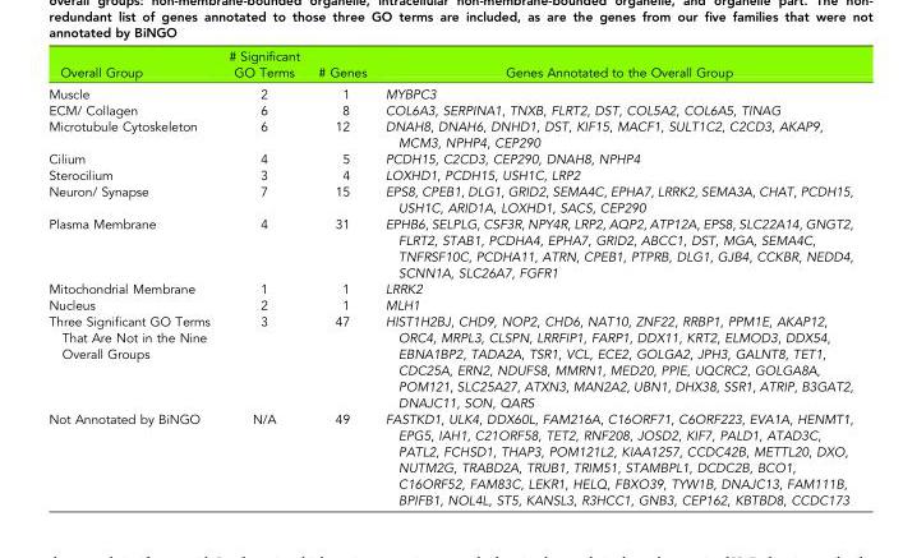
<table><thead><tr><td>Overall Group</td><td># Significant GO Terms</td><td># Genes</td><td>Genes Annotated to the Overall Group</td></tr></thead><tbody><tr><td>Muscle</td><td>2</td><td>1</td><td>MYBPC3</td></tr><tr><td>ECM/ Collagen</td><td>6</td><td>8</td><td>COL6A3, SERPINA1, TNXB, FLRT2, DST, COL5A2, COL6A5, TINAG</td></tr><tr><td>Microtubule Cytoskeleton</td><td>6</td><td>12</td><td>DNAH8, DNAH6, DNHD1, DST, KIF15, MACF1, SULT1C2, C2CD3, AKAP9, MCM3, NPHP4, CEP290</td></tr><tr><td>Cilium</td><td>4</td><td>5</td><td>PCDH15, C2CD3, CEP290, DNAH8, NPHP4</td></tr><tr><td>Sterocilium</td><td>3</td><td>4</td><td>LOXHD1, PCDH15, USH1C, LRP2</td></tr><tr><td>Neuron/ Synapse</td><td>7</td><td>15</td><td>EPS8, CPEB1, DLG1, GRID2, SEMA4C, EPHA7, LRRK2, SEMA3A, CHAT, PCDH15, USH1C, ARID1A, LOXHD1, SACS, CEP290</td></tr><tr><td>Plasma Membrane</td><td>4</td><td>31</td><td>EPHB6, SELPLG, CSF3R, NPY4R, LRP2, AQP2, ATP12A, EPS8, SLC22A14, GNGT2, FLRT2, STAB1, PCDHA4, EPHA7, GRID2, ABCC1, DST, MGA, SEMA4C, TNFRSF10C, PCDHA11, ATRN, CPEB1, PTPRB, DLG1, GJB4, CCKBR, NEDD4, SCNN1A, SLC26A7, FGFR1</td></tr><tr><td>Mitochondrial Membrane</td><td>1</td><td>1</td><td>LRRK2</td></tr><tr><td>Nucleus</td><td>2</td><td>1</td><td>MLH1</td></tr><tr><td>Three Significant GO Terms That Are Not in the Nine Overall Groups</td><td>3</td><td>47</td><td>HIST1H2BJ, CHD9, NOP2, CHD6, NAT10, ZNF22, RRBP1, PPM1E, AKAP12, ORC4, MRPL3, CLSPN, LRRFIP1, FARP1, DDX11, KRT2, ELMOD3, DDX54, EBNA1BP2, TADA2A, TSR1, VCL, ECE2, GOLGA2, JPH3, GALNT8, TET1, CDC25A, ERN2, NDUFS8, MMRN1, MED20, PPIE, UQCRC2, GOLGA8A, POM121, SLC25A27, ATXN3, MAN2A2, UBN1, DHX38, SSR1, ATRIP, B3GAT2, DNAJC11, SON, QARS</td></tr><tr><td>Not Annotated by BiNGO</td><td>N/A</td><td>49</td><td>FASTKD1, ULK4, DDX60L, FAM216A, C16ORF71, C6ORF223, EVA1A, HENMT1, EPG5, IAH1, C21ORF58, TET2, RNF208, JOSD2, KIF7, PALD1, ATAD3C, PATL2, FCHSD1, THAP3, POM121L2, KIAA1257, CCDC42B, METTL20, DXO, NUTM2G, TRABD2A, TRUB1, TRIM51, STAMBPL1, DCDC2B, BCO1, C16ORF52, FAM83C, LEKR1, HELQ, FBXO39, TYW1B, DNAJC13, FAM111B, BPIFB1, NOL4L, ST5, KANSL3, R3HCC1, GNB3, CEP162, KBTBD8, CCDC173</td></tr></tbody></table>